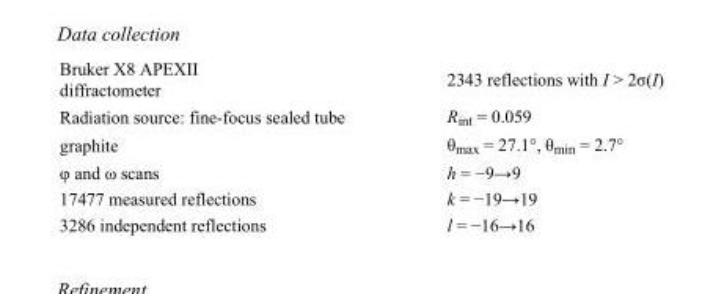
<table><tbody><tr><td>Bruker X8 APEXII diffractometer</td><td>2343 reflections with I &gt; 2σ(I)</td></tr><tr><td>Radiation source: fine-focus sealed tube</td><td>R<sub>int</sub> = 0.059</td></tr><tr><td>graphite</td><td>θ<sub>max</sub> = 27.1°, θ<sub>min</sub> = 2.7°</td></tr><tr><td>φ and ω scans</td><td>h = −9→9</td></tr><tr><td>17477 measured reflections</td><td>k = −19→19</td></tr><tr><td>3286 independent reflections</td><td>l = −16→16</td></tr></tbody></table>